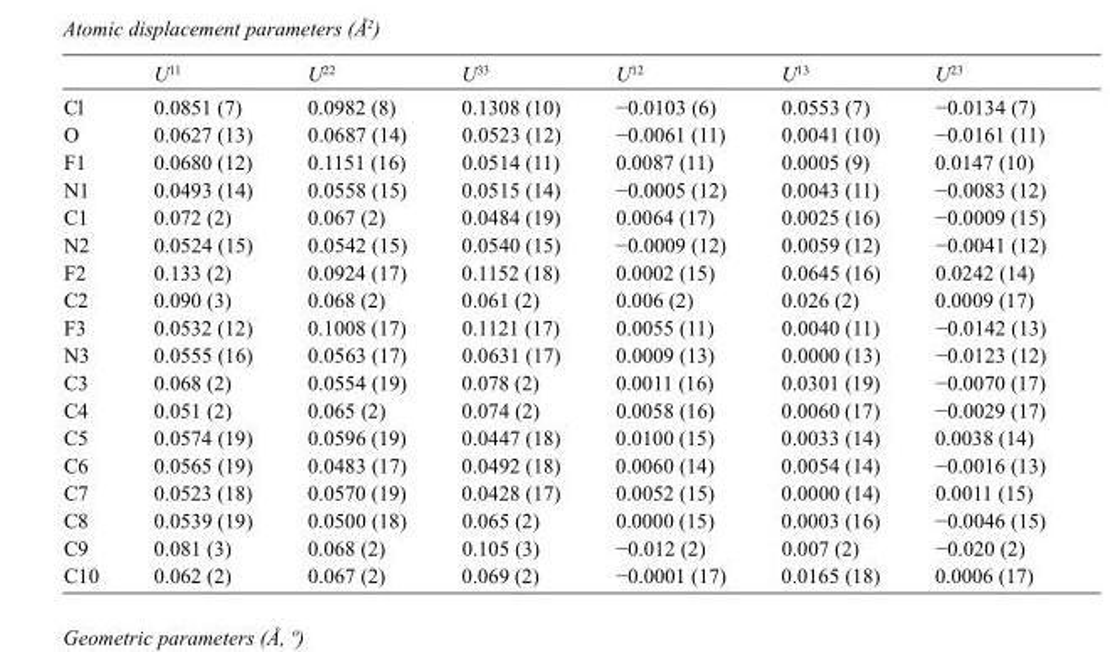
<table><thead><tr><td></td><td>U<sup>11</sup></td><td>U<sup>22</sup></td><td>U<sup>33</sup></td><td>U<sup>12</sup></td><td>U<sup>13</sup></td><td>U<sup>23</sup></td></tr></thead><tbody><tr><td>Cl</td><td>0.0851 (7)</td><td>0.0982 (8)</td><td>0.1308 (10)</td><td>−0.0103 (6)</td><td>0.0553 (7)</td><td>−0.0134 (7)</td></tr><tr><td>O</td><td>0.0627 (13)</td><td>0.0687 (14)</td><td>0.0523 (12)</td><td>−0.0061 (11)</td><td>0.0041 (10)</td><td>−0.0161 (11)</td></tr><tr><td>F1</td><td>0.0680 (12)</td><td>0.1151 (16)</td><td>0.0514 (11)</td><td>0.0087 (11)</td><td>0.0005 (9)</td><td>0.0147 (10)</td></tr><tr><td>N1</td><td>0.0493 (14)</td><td>0.0558 (15)</td><td>0.0515 (14)</td><td>−0.0005 (12)</td><td>0.0043 (11)</td><td>−0.0083 (12)</td></tr><tr><td>C1</td><td>0.072 (2)</td><td>0.067 (2)</td><td>0.0484 (19)</td><td>0.0064 (17)</td><td>0.0025 (16)</td><td>−0.0009 (15)</td></tr><tr><td>N2</td><td>0.0524 (15)</td><td>0.0542 (15)</td><td>0.0540 (15)</td><td>−0.0009 (12)</td><td>0.0059 (12)</td><td>−0.0041 (12)</td></tr><tr><td>F2</td><td>0.133 (2)</td><td>0.0924 (17)</td><td>0.1152 (18)</td><td>0.0002 (15)</td><td>0.0645 (16)</td><td>0.0242 (14)</td></tr><tr><td>C2</td><td>0.090 (3)</td><td>0.068 (2)</td><td>0.061 (2)</td><td>0.006 (2)</td><td>0.026 (2)</td><td>0.0009 (17)</td></tr><tr><td>F3</td><td>0.0532 (12)</td><td>0.1008 (17)</td><td>0.1121 (17)</td><td>0.0055 (11)</td><td>0.0040 (11)</td><td>−0.0142 (13)</td></tr><tr><td>N3</td><td>0.0555 (16)</td><td>0.0563 (17)</td><td>0.0631 (17)</td><td>0.0009 (13)</td><td>0.0000 (13)</td><td>−0.0123 (12)</td></tr><tr><td>C3</td><td>0.068 (2)</td><td>0.0554 (19)</td><td>0.078 (2)</td><td>0.0011 (16)</td><td>0.0301 (19)</td><td>−0.0070 (17)</td></tr><tr><td>C4</td><td>0.051 (2)</td><td>0.065 (2)</td><td>0.074 (2)</td><td>0.0058 (16)</td><td>0.0060 (17)</td><td>−0.0029 (17)</td></tr><tr><td>C5</td><td>0.0574 (19)</td><td>0.0596 (19)</td><td>0.0447 (18)</td><td>0.0100 (15)</td><td>0.0033 (14)</td><td>0.0038 (14)</td></tr><tr><td>C6</td><td>0.0565 (19)</td><td>0.0483 (17)</td><td>0.0492 (18)</td><td>0.0060 (14)</td><td>0.0054 (14)</td><td>−0.0016 (13)</td></tr><tr><td>C7</td><td>0.0523 (18)</td><td>0.0570 (19)</td><td>0.0428 (17)</td><td>0.0052 (15)</td><td>0.0000 (14)</td><td>0.0011 (15)</td></tr><tr><td>C8</td><td>0.0539 (19)</td><td>0.0500 (18)</td><td>0.065 (2)</td><td>0.0000 (15)</td><td>0.0003 (16)</td><td>−0.0046 (15)</td></tr><tr><td>C9</td><td>0.081 (3)</td><td>0.068 (2)</td><td>0.105 (3)</td><td>−0.012 (2)</td><td>0.007 (2)</td><td>−0.020 (2)</td></tr><tr><td>C10</td><td>0.062 (2)</td><td>0.067 (2)</td><td>0.069 (2)</td><td>−0.0001 (17)</td><td>0.0165 (18)</td><td>0.0006 (17)</td></tr></tbody></table>